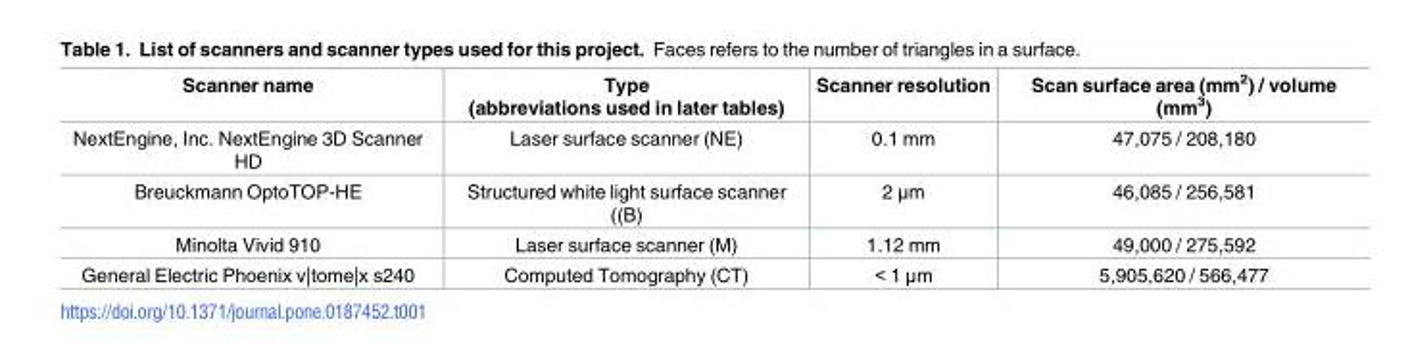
<table><thead><tr><td>Scanner name</td><td>Type (abbreviations used in later tables)</td><td>Scanner resolution</td><td>Scan surface area (mm<sup>2</sup>) / volume (mm<sup>3</sup>)</td></tr></thead><tbody><tr><td>NextEngine, Inc. NextEngine 3D Scanner HD</td><td>Laser surface scanner (NE)</td><td>0.1 mm</td><td>47,075 / 208,180</td></tr><tr><td>Breuckmann OptoTOP-HE</td><td>Structured white light surface scanner ((B)</td><td>2 μm</td><td>46,085 / 256,581</td></tr><tr><td>Minolta Vivid 910</td><td>Laser surface scanner (M)</td><td>1.12 mm</td><td>49,000 / 275,592</td></tr><tr><td>General Electric Phoenix v|tome|x s240</td><td>Computed Tomography (CT)</td><td>&lt; 1 μm</td><td>5,905,620 / 566,477</td></tr></tbody></table>